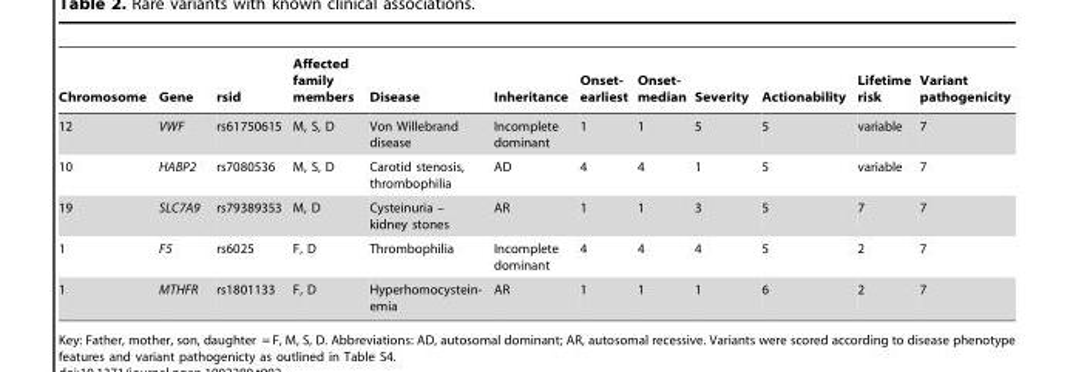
<table><thead><tr><td>Chromosome</td><td>Gene</td><td>rsid</td><td>Affected family members</td><td>Disease</td><td>Inheritance</td><td>Onset- earliest</td><td>Onset- median</td><td>Severity</td><td>Actionability</td><td>Lifetime risk</td><td>Variant pathogenicity</td></tr></thead><tbody><tr><td>12</td><td>VWF</td><td>rs61750615</td><td>M, S, D</td><td>Von Willebrand disease</td><td>Incomplete dominant</td><td>1</td><td>1</td><td>5</td><td>5</td><td>variable</td><td>7</td></tr><tr><td>10</td><td>HABP2</td><td>rs7080536</td><td>M, S, D</td><td>Carotid stenosis, thrombophilia</td><td>AD</td><td>4</td><td>4</td><td>1</td><td>5</td><td>variable</td><td>7</td></tr><tr><td>19</td><td>SLC7A9</td><td>rs79389353</td><td>M, D</td><td>Cysteinuria – kidney stones</td><td>AR</td><td>1</td><td>1</td><td>3</td><td>5</td><td>7</td><td>7</td></tr><tr><td>1</td><td>F5</td><td>rs6025</td><td>F, D</td><td>Thrombophilia</td><td>Incomplete dominant</td><td>4</td><td>4</td><td>4</td><td>5</td><td>2</td><td>7</td></tr><tr><td>1</td><td>MTHFR</td><td>rs1801133</td><td>F, D</td><td>Hyperhomocystein- emia</td><td>AR</td><td>1</td><td>1</td><td>1</td><td>6</td><td>2</td><td>7</td></tr></tbody></table>